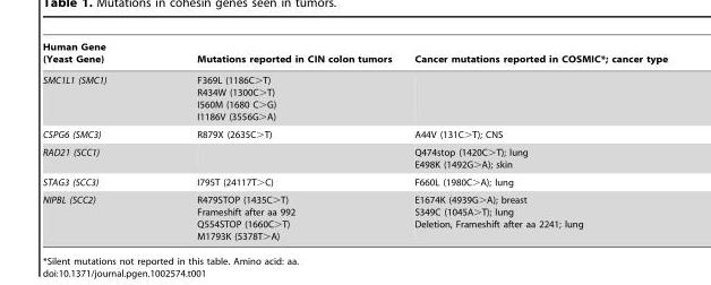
<table><thead><tr><td>Human Gene (Yeast Gene)</td><td>Mutations reported in CIN colon tumors</td><td>Cancer mutations reported in COSMIC*; cancer type</td></tr></thead><tbody><tr><td>SMC1L1 (SMC1)</td><td>F369L (1186C&gt;T) R434W (1300C&gt;T) I560M (1680 C&gt;G) I1186V (3556G&gt;A)</td><td></td></tr><tr><td>CSPG6 (SMC3)</td><td>R879X (2635C&gt;T)</td><td>A44V (131C&gt;T); CNS</td></tr><tr><td>RAD21 (SCC1)</td><td></td><td>Q474stop (1420C&gt;T); lung E498K (1492G&gt;A); skin</td></tr><tr><td>STAG3 (SCC3)</td><td>I795T (24117T&gt;C)</td><td>F660L (1980C&gt;A); lung</td></tr><tr><td>NIPBL (SCC2)</td><td>R479STOP (1435C&gt;T) Frameshift after aa 992 Q554STOP (1660C&gt;T) M1793K (5378T&gt;A)</td><td>E1674K (4939G&gt;A); breast S349C (1045A&gt;T); lung Deletion, Frameshift after aa 2241; lung</td></tr></tbody></table>